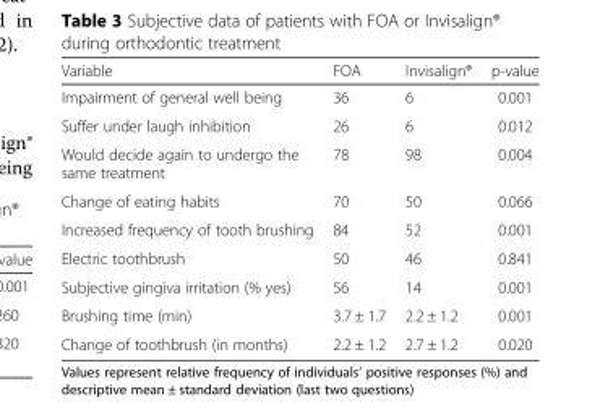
<table><thead><tr><td>Variable</td><td>FOA</td><td>Invisalign®</td><td>p-value</td></tr></thead><tbody><tr><td>Impairment of general well being</td><td>36</td><td>6</td><td>0.001</td></tr><tr><td>Suffer under laugh inhibition</td><td>26</td><td>6</td><td>0.012</td></tr><tr><td>Would decide again to undergo the same treatment</td><td>78</td><td>98</td><td>0.004</td></tr><tr><td>Change of eating habits</td><td>70</td><td>50</td><td>0.066</td></tr><tr><td>Increased frequency of tooth brushing</td><td>84</td><td>52</td><td>0.001</td></tr><tr><td>Electric toothbrush</td><td>50</td><td>46</td><td>0.841</td></tr><tr><td>Subjective gingiva irritation (% yes)</td><td>56</td><td>14</td><td>0.001</td></tr><tr><td>Brushing time (min)</td><td>3.7 ± 1.7</td><td>2.2 ± 1.2</td><td>0.001</td></tr><tr><td>Change of toothbrush (in months)</td><td>2.2 ± 1.2</td><td>2.7 ± 1.2</td><td>0.020</td></tr></tbody></table>